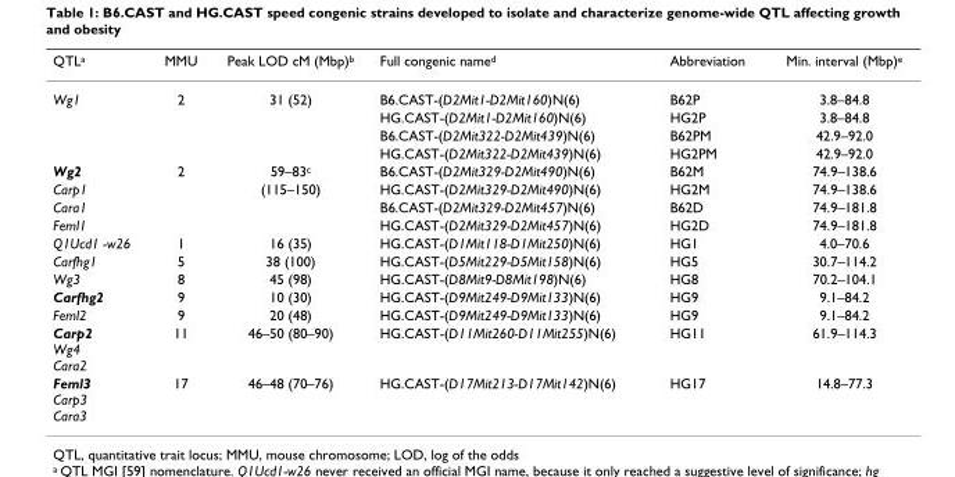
<table><thead><tr><td>QTLa</td><td>MMU</td><td>Peak LOD cM (Mbp)b</td><td>Full congenic named</td><td>Abbreviation</td><td>Min. interval (Mbp)e</td></tr></thead><tbody><tr><td rowspan="4">Wg1</td><td>2</td><td>31 (52)</td><td>B6.CAST-(D2Mit1-D2Mit160)N(6)</td><td>B62P</td><td>3.8–84.8</td></tr><tr><td></td><td></td><td>HG.CAST-(D2Mit1-D2Mit160)N(6)</td><td>HG2P</td><td>3.8–84.8</td></tr><tr><td></td><td></td><td>B6.CAST-(D2Mit322-D2Mit439)N(6)</td><td>B62PM</td><td>42.9–92.0</td></tr><tr><td></td><td></td><td>HG.CAST-(D2Mit322-D2Mit439)N(6)</td><td>HG2PM</td><td>42.9–92.0</td></tr><tr><td>Wg2</td><td>2</td><td>59–83c</td><td>B6.CAST-(D2Mit329-D2Mit490)N(6)</td><td>B62M</td><td>74.9–138.6</td></tr><tr><td>Carp1</td><td></td><td>(115–150)</td><td>HG.CAST-(D2Mit329-D2Mit490)N(6)</td><td>HG2M</td><td>74.9–138.6</td></tr><tr><td>Cara1</td><td></td><td></td><td>B6.CAST-(D2Mit329-D2Mit457)N(6)</td><td>B62D</td><td>74.9–181.8</td></tr><tr><td>Feml1</td><td></td><td></td><td>HG.CAST-(D2Mit329-D2Mit457)N(6)</td><td>HG2D</td><td>74.9–181.8</td></tr><tr><td>Q1Ucd1 -w26</td><td>1</td><td>16 (35)</td><td>HG.CAST-(D1Mit118-D1Mit250)N(6)</td><td>HG1</td><td>4.0–70.6</td></tr><tr><td>Carfhg1</td><td>5</td><td>38 (100)</td><td>HG.CAST-(D5Mit229-D5Mit158)N(6)</td><td>HG5</td><td>30.7–114.2</td></tr><tr><td>Wg3</td><td>8</td><td>45 (98)</td><td>HG.CAST-(D8Mit9-D8Mit198)N(6)</td><td>HG8</td><td>70.2–104.1</td></tr><tr><td>Carfhg2</td><td>9</td><td>10 (30)</td><td>HG.CAST-(D9Mit249-D9Mit133)N(6)</td><td>HG9</td><td>9.1–84.2</td></tr><tr><td>Feml2</td><td>9</td><td>20 (48)</td><td>HG.CAST-(D9Mit249-D9Mit133)N(6)</td><td>HG9</td><td>9.1–84.2</td></tr><tr><td>Carp2 Wg4 Cara2</td><td>11</td><td>46–50 (80–90)</td><td>HG.CAST-(D11Mit260-D11Mit255)N(6)</td><td>HG11</td><td>61.9–114.3</td></tr><tr><td>Feml3 Carp3 Cara3</td><td>17</td><td>46–48 (70–76)</td><td>HG.CAST-(D17Mit213-D17Mit142)N(6)</td><td>HG17</td><td>14.8–77.3</td></tr></tbody></table>